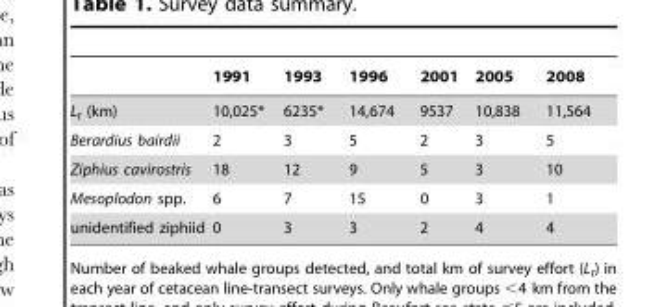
<table><thead><tr><td></td><td>1991</td><td>1993</td><td>1996</td><td>2001</td><td>2005</td><td>2008</td></tr></thead><tbody><tr><td>L<sub>t</sub> (km)</td><td>10,025*</td><td>6235*</td><td>14,674</td><td>9537</td><td>10,838</td><td>11,564</td></tr><tr><td>Berardius bairdii</td><td>2</td><td>3</td><td>5</td><td>2</td><td>3</td><td>5</td></tr><tr><td>Ziphius cavirostris</td><td>18</td><td>12</td><td>9</td><td>5</td><td>3</td><td>10</td></tr><tr><td>Mesoplodon spp.</td><td>6</td><td>7</td><td>15</td><td>0</td><td>3</td><td>1</td></tr><tr><td>unidentified ziphiid</td><td>0</td><td>3</td><td>3</td><td>2</td><td>4</td><td>4</td></tr></tbody></table>